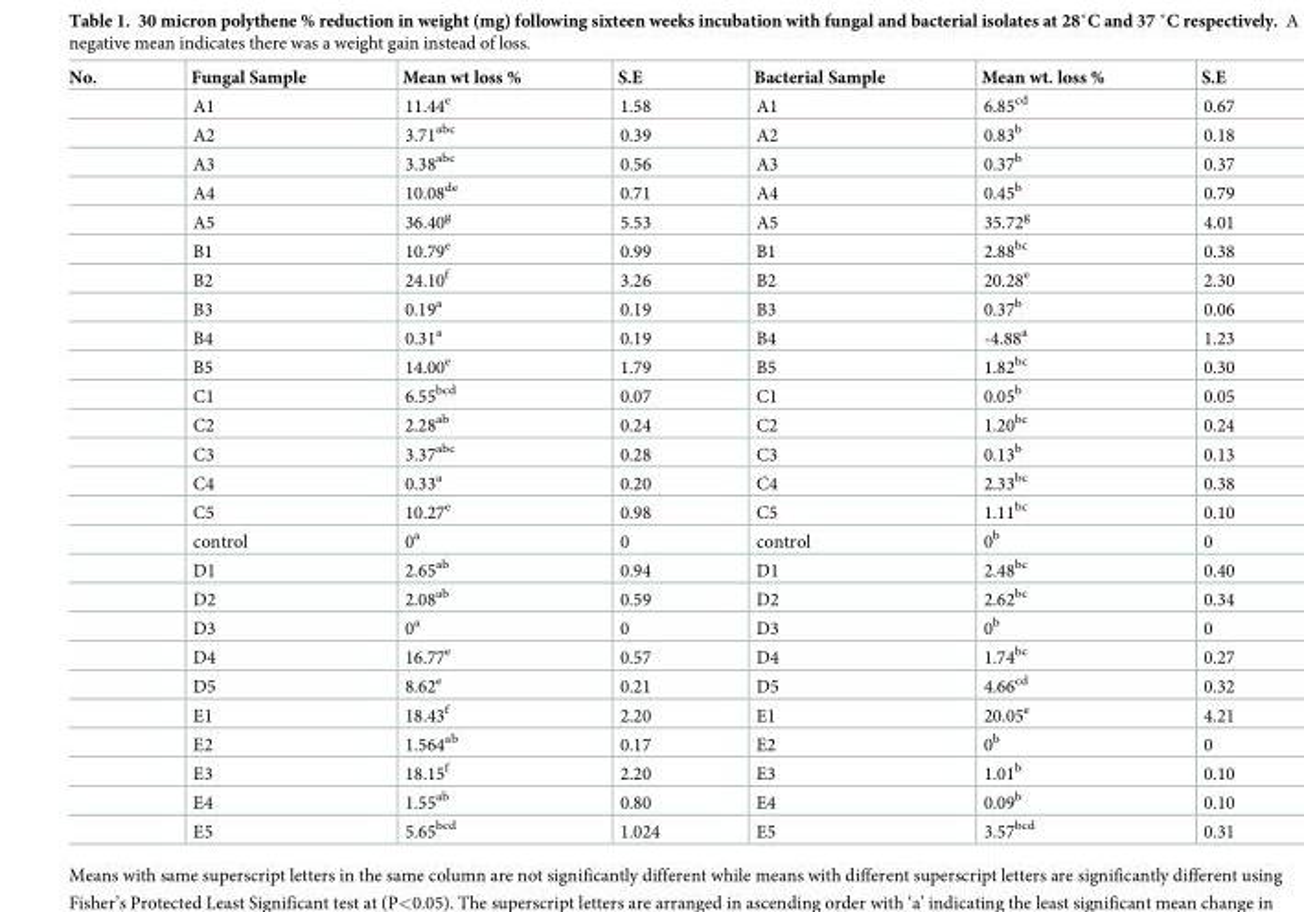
<table><thead><tr><td>No.</td><td>Fungal Sample</td><td>Mean wt loss %</td><td>S.E</td><td>Bacterial Sample</td><td>Mean wt. loss %</td><td>S.E</td></tr></thead><tbody><tr><td></td><td>A1</td><td>11.44<sup>e</sup></td><td>1.58</td><td>A1</td><td>6.85<sup>cd</sup></td><td>0.67</td></tr><tr><td></td><td>A2</td><td>3.71<sup>abc</sup></td><td>0.39</td><td>A2</td><td>0.83<sup>b</sup></td><td>0.18</td></tr><tr><td></td><td>A3</td><td>3.38<sup>abc</sup></td><td>0.56</td><td>A3</td><td>0.37<sup>b</sup></td><td>0.37</td></tr><tr><td></td><td>A4</td><td>10.08<sup>de</sup></td><td>0.71</td><td>A4</td><td>0.45<sup>b</sup></td><td>0.79</td></tr><tr><td></td><td>A5</td><td>36.40<sup>g</sup></td><td>5.53</td><td>A5</td><td>35.72<sup>g</sup></td><td>4.01</td></tr><tr><td></td><td>B1</td><td>10.79<sup>e</sup></td><td>0.99</td><td>B1</td><td>2.88<sup>bc</sup></td><td>0.38</td></tr><tr><td></td><td>B2</td><td>24.10<sup>f</sup></td><td>3.26</td><td>B2</td><td>20.28<sup>e</sup></td><td>2.30</td></tr><tr><td></td><td>B3</td><td>0.19<sup>a</sup></td><td>0.19</td><td>B3</td><td>0.37<sup>b</sup></td><td>0.06</td></tr><tr><td></td><td>B4</td><td>0.31<sup>a</sup></td><td>0.19</td><td>B4</td><td>-4.88<sup>a</sup></td><td>1.23</td></tr><tr><td></td><td>B5</td><td>14.00<sup>e</sup></td><td>1.79</td><td>B5</td><td>1.82<sup>bc</sup></td><td>0.30</td></tr><tr><td></td><td>C1</td><td>6.55<sup>bcd</sup></td><td>0.07</td><td>C1</td><td>0.05<sup>b</sup></td><td>0.05</td></tr><tr><td></td><td>C2</td><td>2.28<sup>ab</sup></td><td>0.24</td><td>C2</td><td>1.20<sup>bc</sup></td><td>0.24</td></tr><tr><td></td><td>C3</td><td>3.37<sup>abc</sup></td><td>0.28</td><td>C3</td><td>0.13<sup>b</sup></td><td>0.13</td></tr><tr><td></td><td>C4</td><td>0.33<sup>a</sup></td><td>0.20</td><td>C4</td><td>2.33<sup>bc</sup></td><td>0.38</td></tr><tr><td></td><td>C5</td><td>10.27<sup>e</sup></td><td>0.98</td><td>C5</td><td>1.11<sup>bc</sup></td><td>0.10</td></tr><tr><td></td><td>control</td><td>0<sup>a</sup></td><td>0</td><td>control</td><td>0<sup>b</sup></td><td>0</td></tr><tr><td></td><td>D1</td><td>2.65<sup>ab</sup></td><td>0.94</td><td>D1</td><td>2.48<sup>bc</sup></td><td>0.40</td></tr><tr><td></td><td>D2</td><td>2.08<sup>ab</sup></td><td>0.59</td><td>D2</td><td>2.62<sup>bc</sup></td><td>0.34</td></tr><tr><td></td><td>D3</td><td>0<sup>a</sup></td><td>0</td><td>D3</td><td>0<sup>b</sup></td><td>0</td></tr><tr><td></td><td>D4</td><td>16.77<sup>e</sup></td><td>0.57</td><td>D4</td><td>1.74<sup>bc</sup></td><td>0.27</td></tr><tr><td></td><td>D5</td><td>8.62<sup>e</sup></td><td>0.21</td><td>D5</td><td>4.66<sup>cd</sup></td><td>0.32</td></tr><tr><td></td><td>E1</td><td>18.43<sup>f</sup></td><td>2.20</td><td>E1</td><td>20.05<sup>e</sup></td><td>4.21</td></tr><tr><td></td><td>E2</td><td>1.564<sup>ab</sup></td><td>0.17</td><td>E2</td><td>0<sup>b</sup></td><td>0</td></tr><tr><td></td><td>E3</td><td>18.15<sup>f</sup></td><td>2.20</td><td>E3</td><td>1.01<sup>b</sup></td><td>0.10</td></tr><tr><td></td><td>E4</td><td>1.55<sup>ab</sup></td><td>0.80</td><td>E4</td><td>0.09<sup>b</sup></td><td>0.10</td></tr><tr><td></td><td>E5</td><td>5.65<sup>bcd</sup></td><td>1.024</td><td>E5</td><td>3.57<sup>bcd</sup></td><td>0.31</td></tr></tbody></table>